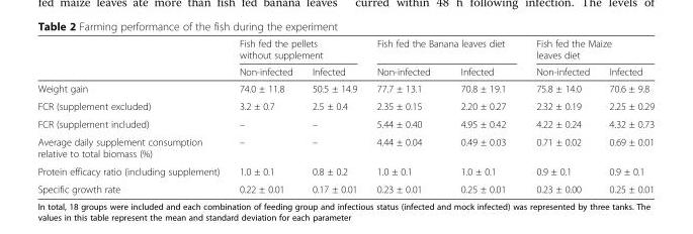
<table><thead><tr><td rowspan="2"></td><td colspan="2">Fish fed the pellets without supplement</td><td colspan="2">Fish fed the Banana leaves diet</td><td colspan="2">Fish fed the Maize leaves diet</td></tr><tr><td>Non-infected</td><td>Infected</td><td>Non-infected</td><td>Infected</td><td>Non-infected</td><td>Infected</td></tr></thead><tbody><tr><td>Weight gain</td><td>74.0 ± 11.8</td><td>50.5 ± 14.9</td><td>77.7 ± 13.1</td><td>70.8 ± 19.1</td><td>75.8 ± 14.0</td><td>70.6 ± 9.8</td></tr><tr><td>FCR (supplement excluded)</td><td>3.2 ± 0.7</td><td>2.5 ± 0.4</td><td>2.35 ± 0.15</td><td>2.20 ± 0.27</td><td>2.32 ± 0.19</td><td>2.25 ± 0.29</td></tr><tr><td>FCR (supplement included)</td><td>–</td><td>–</td><td>5.44 ± 0.40</td><td>4.95 ± 0.42</td><td>4.22 ± 0.24</td><td>4.32 ± 0.73</td></tr><tr><td>Average daily supplement consumption relative to total biomass (%)</td><td>–</td><td>–</td><td>4.44 ± 0.04</td><td>0.49 ± 0.03</td><td>0.71 ± 0.02</td><td>0.69 ± 0.01</td></tr><tr><td>Protein efficacy ratio (including supplement)</td><td>1.0 ± 0.1</td><td>0.8 ± 0.2</td><td>1.0 ± 0.1</td><td>1.0 ± 0.1</td><td>0.9 ± 0.1</td><td>0.9 ± 0.1</td></tr><tr><td>Specific growth rate</td><td>0.22 ± 0.01</td><td>0.17 ± 0.01</td><td>0.23 ± 0.01</td><td>0.25 ± 0.01</td><td>0.23 ± 0.00</td><td>0.25 ± 0.01</td></tr></tbody></table>